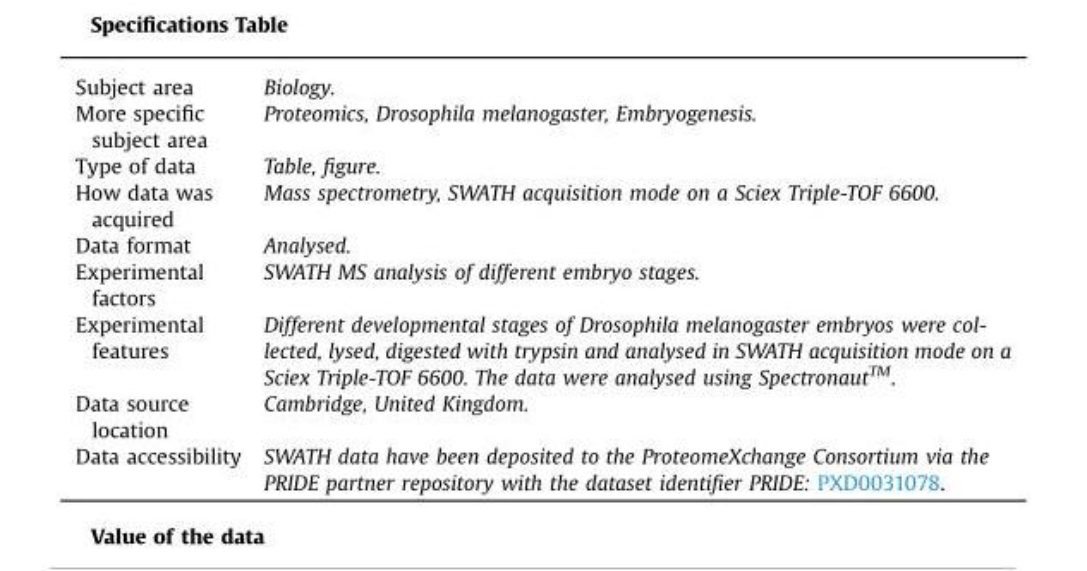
<table><tbody><tr><td>Subject area</td><td>Biology.</td></tr><tr><td>More specific subject area</td><td>Proteomics, Drosophila melanogaster, Embryogenesis.</td></tr><tr><td>Type of data</td><td>Table, figure.</td></tr><tr><td>How data was acquired</td><td>Mass spectrometry, SWATH acquisition mode on a Sciex Triple-TOF 6600.</td></tr><tr><td>Data format</td><td>Analysed.</td></tr><tr><td>Experimental factors</td><td>SWATH MS analysis of different embryo stages.</td></tr><tr><td>Experimental features</td><td>Different developmental stages of Drosophila melanogaster embryos were col- lected, lysed, digested with trypsin and analysed in SWATH acquisition mode on a Sciex Triple-TOF 6600. The data were analysed using SpectronautTM.</td></tr><tr><td>Data source location</td><td>Cambridge, United Kingdom.</td></tr><tr><td>Data accessibility</td><td>SWATH data have been deposited to the ProteomeXchange Consortium via the PRIDE partner repository with the dataset identifier PRIDE: PXD0031078.</td></tr></tbody></table>